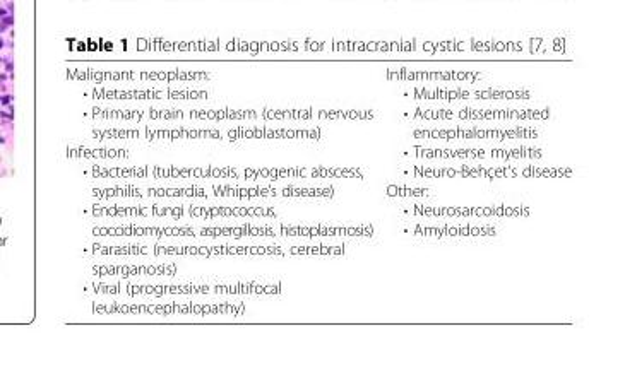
<table><tbody><tr><td>Malignant neoplasm: • Metastatic lesion • Primary brain neoplasm (central nervous system lymphoma, glioblastoma) Infection: • Bacterial (tuberculosis, pyogenic abscess, syphilis, nocardia, Whipple’s disease) • Endemic fungi (cryptococcus, coccidiomycosis, aspergillosis, histoplasmosis) • Parasitic (neurocysticercosis, cerebral sparganosis) • Viral (progressive multifocal leukoencephalopathy)</td><td>Inflammatory: • Multiple sclerosis • Acute disseminated encephalomyelitis • Transverse myelitis • Neuro-Behçet’s disease Other: • Neurosarcoidosis • Amyloidosis</td></tr></tbody></table>